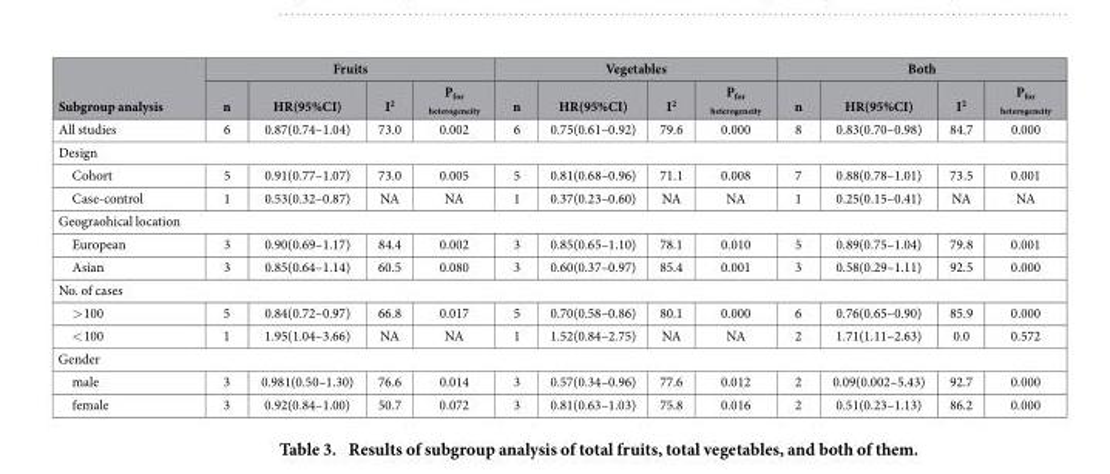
<table><thead><tr><td rowspan="2">Subgroup analysis</td><td colspan="4">Fruits</td><td colspan="4">Vegetables</td><td colspan="4">Both</td></tr><tr><td>n</td><td>HR(95%CI)</td><td>I<sup>2</sup></td><td>P<sub>for heterogeneity</sub></td><td>n</td><td>HR(95%CI)</td><td>I<sup>2</sup></td><td>P<sub>for heterogeneity</sub></td><td>n</td><td>HR(95%CI)</td><td>I<sup>2</sup></td><td>P<sub>for heterogeneity</sub></td></tr></thead><tbody><tr><td>All studies</td><td>6</td><td>0.87(0.74–1.04)</td><td>73.0</td><td>0.002</td><td>6</td><td>0.75(0.61–0.92)</td><td>79.6</td><td>0.000</td><td>8</td><td>0.83(0.70–0.98)</td><td>84.7</td><td>0.000</td></tr><tr><td colspan="13">Design</td></tr><tr><td>Cohort</td><td>5</td><td>0.91(0.77–1.07)</td><td>73.0</td><td>0.005</td><td>5</td><td>0.81(0.68–0.96)</td><td>71.1</td><td>0.008</td><td>7</td><td>0.88(0.78–1.01)</td><td>73.5</td><td>0.001</td></tr><tr><td>Case-control</td><td>1</td><td>0.53(0.32–0.87)</td><td>NA</td><td>NA</td><td>1</td><td>0.37(0.23–0.60)</td><td>NA</td><td>NA</td><td>1</td><td>0.25(0.15–0.41)</td><td>NA</td><td>NA</td></tr><tr><td colspan="13">Geograohical location</td></tr><tr><td>European</td><td>3</td><td>0.90(0.69–1.17)</td><td>84.4</td><td>0.002</td><td>3</td><td>0.85(0.65–1.10)</td><td>78.1</td><td>0.010</td><td>5</td><td>0.89(0.75–1.04)</td><td>79.8</td><td>0.001</td></tr><tr><td>Asian</td><td>3</td><td>0.85(0.64–1.14)</td><td>60.5</td><td>0.080</td><td>3</td><td>0.60(0.37–0.97)</td><td>85.4</td><td>0.001</td><td>3</td><td>0.58(0.29–1.11)</td><td>92.5</td><td>0.000</td></tr><tr><td colspan="13">No. of cases</td></tr><tr><td>&gt; 100</td><td>5</td><td>0.84(0.72–0.97)</td><td>66.8</td><td>0.017</td><td>5</td><td>0.70(0.58–0.86)</td><td>80.1</td><td>0.000</td><td>6</td><td>0.76(0.65–0.90)</td><td>85.9</td><td>0.000</td></tr><tr><td>&lt; 100</td><td>1</td><td>1.95(1.04–3.66)</td><td>NA</td><td>NA</td><td>1</td><td>1.52(0.84–2.75)</td><td>NA</td><td>NA</td><td>2</td><td>1.71(1.11–2.63)</td><td>0.0</td><td>0.572</td></tr><tr><td colspan="13">Gender</td></tr><tr><td>male</td><td>3</td><td>0.981(0.50–1.30)</td><td>76.6</td><td>0.014</td><td>3</td><td>0.57(0.34–0.96)</td><td>77.6</td><td>0.012</td><td>2</td><td>0.09(0.002–5.43)</td><td>92.7</td><td>0.000</td></tr><tr><td>female</td><td>3</td><td>0.92(0.84–1.00)</td><td>50.7</td><td>0.072</td><td>3</td><td>0.81(0.63–1.03)</td><td>75.8</td><td>0.016</td><td>2</td><td>0.51(0.23–1.13)</td><td>86.2</td><td>0.000</td></tr></tbody></table>